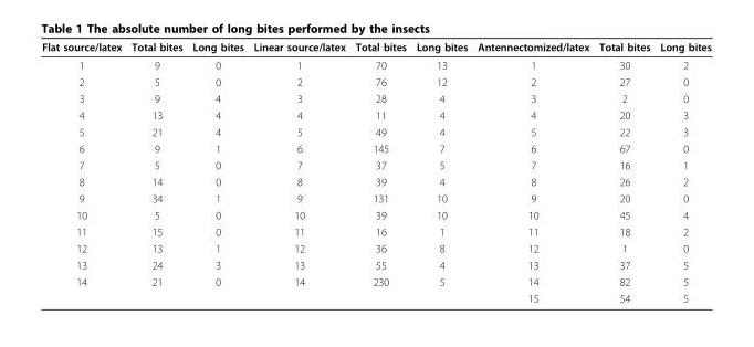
<table><thead><tr><td>Flat source/latex</td><td>Total bites</td><td>Long bites</td><td>Linear source/latex</td><td>Total bites</td><td>Long bites</td><td>Antennectomized/latex</td><td>Total bites</td><td>Long bites</td></tr></thead><tbody><tr><td>1</td><td>9</td><td>0</td><td>1</td><td>70</td><td>13</td><td>1</td><td>30</td><td>2</td></tr><tr><td>2</td><td>5</td><td>0</td><td>2</td><td>76</td><td>12</td><td>2</td><td>27</td><td>0</td></tr><tr><td>3</td><td>9</td><td>4</td><td>3</td><td>28</td><td>4</td><td>3</td><td>2</td><td>0</td></tr><tr><td>4</td><td>13</td><td>4</td><td>4</td><td>11</td><td>4</td><td>4</td><td>20</td><td>3</td></tr><tr><td>5</td><td>21</td><td>4</td><td>5</td><td>49</td><td>4</td><td>5</td><td>22</td><td>3</td></tr><tr><td>6</td><td>9</td><td>1</td><td>6</td><td>145</td><td>7</td><td>6</td><td>67</td><td>0</td></tr><tr><td>7</td><td>5</td><td>0</td><td>7</td><td>37</td><td>5</td><td>7</td><td>16</td><td>1</td></tr><tr><td>8</td><td>14</td><td>0</td><td>8</td><td>39</td><td>4</td><td>8</td><td>26</td><td>2</td></tr><tr><td>9</td><td>34</td><td>1</td><td>9</td><td>131</td><td>10</td><td>9</td><td>20</td><td>0</td></tr><tr><td>10</td><td>5</td><td>0</td><td>10</td><td>39</td><td>10</td><td>10</td><td>45</td><td>4</td></tr><tr><td>11</td><td>15</td><td>0</td><td>11</td><td>16</td><td>1</td><td>11</td><td>18</td><td>2</td></tr><tr><td>12</td><td>13</td><td>1</td><td>12</td><td>36</td><td>8</td><td>12</td><td>1</td><td>0</td></tr><tr><td>13</td><td>24</td><td>3</td><td>13</td><td>55</td><td>4</td><td>13</td><td>37</td><td>5</td></tr><tr><td rowspan="2">14</td><td>21</td><td>0</td><td>14</td><td>230</td><td>5</td><td>14</td><td>82</td><td>5</td></tr><tr><td></td><td></td><td></td><td></td><td></td><td>15</td><td>54</td><td>5</td></tr></tbody></table>